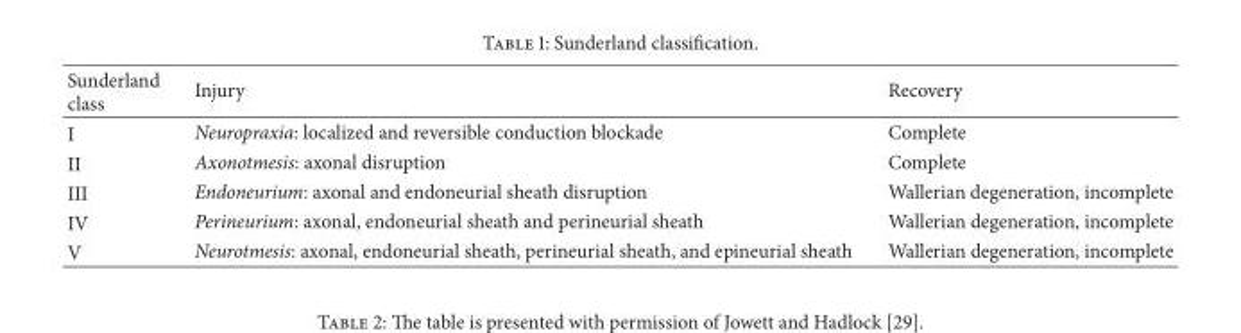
<table><thead><tr><td>Sunderland class</td><td>Injury</td><td>Recovery</td></tr></thead><tbody><tr><td>I</td><td>Neuropraxia: localized and reversible conduction blockade</td><td>Complete</td></tr><tr><td>II</td><td>Axonotmesis: axonal disruption</td><td>Complete</td></tr><tr><td>III</td><td>Endoneurium: axonal and endoneurial sheath disruption</td><td>Wallerian degeneration, incomplete</td></tr><tr><td>IV</td><td>Perineurium: axonal, endoneurial sheath and perineurial sheath</td><td>Wallerian degeneration, incomplete</td></tr><tr><td>V</td><td>Neurotmesis: axonal, endoneurial sheath, perineurial sheath, and epineurial sheath</td><td>Wallerian degeneration, incomplete</td></tr></tbody></table>